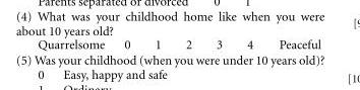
<table><tbody><tr><td>Quarrelsome</td><td>0</td><td>1</td><td>2</td><td>3</td><td>4</td><td>Peaceful</td></tr></tbody></table>